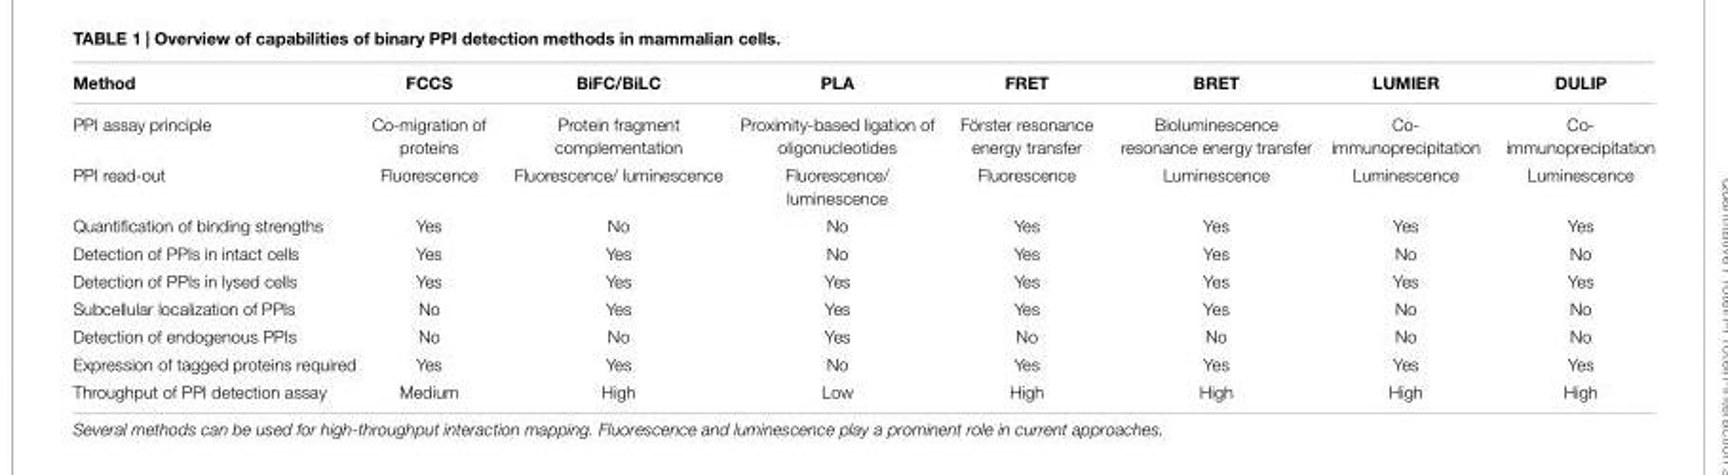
<table><thead><tr><td>Method</td><td>FCCS</td><td>BiFC/BiLC</td><td>PLA</td><td>FRET</td><td>BRET</td><td>LUMIER</td><td>DULIP</td></tr></thead><tbody><tr><td>PPI assay principle</td><td>Co-migration of proteins</td><td>Protein fragment complementation</td><td>Proximity-based ligation of oligonucleotides</td><td>Förster resonance energy transfer</td><td>Bioluminescence resonance energy transfer</td><td>Co- immunoprecipitation</td><td>Co- immunoprecipitation</td></tr><tr><td>PPI read-out</td><td>Fluorescence</td><td>Fluorescence/ luminescence</td><td>Fluorescence/ luminescence</td><td>Fluorescence</td><td>Luminescence</td><td>Luminescence</td><td>Luminescence</td></tr><tr><td>Quantification of binding strengths</td><td>Yes</td><td>No</td><td>No</td><td>Yes</td><td>Yes</td><td>Yes</td><td>Yes</td></tr><tr><td>Detection of PPIs in intact cells</td><td>Yes</td><td>Yes</td><td>No</td><td>Yes</td><td>Yes</td><td>No</td><td>No</td></tr><tr><td>Detection of PPIs in lysed cells</td><td>Yes</td><td>Yes</td><td>Yes</td><td>Yes</td><td>Yes</td><td>Yes</td><td>Yes</td></tr><tr><td>Subcellular localization of PPIs</td><td>No</td><td>Yes</td><td>Yes</td><td>Yes</td><td>Yes</td><td>No</td><td>No</td></tr><tr><td>Detection of endogenous PPIs</td><td>No</td><td>No</td><td>Yes</td><td>No</td><td>No</td><td>No</td><td>No</td></tr><tr><td>Expression of tagged proteins required</td><td>Yes</td><td>Yes</td><td>No</td><td>Yes</td><td>Yes</td><td>Yes</td><td>Yes</td></tr><tr><td>Throughput of PPI detection assay</td><td>Medium</td><td>High</td><td>Low</td><td>High</td><td>High</td><td>High</td><td>High</td></tr></tbody></table>